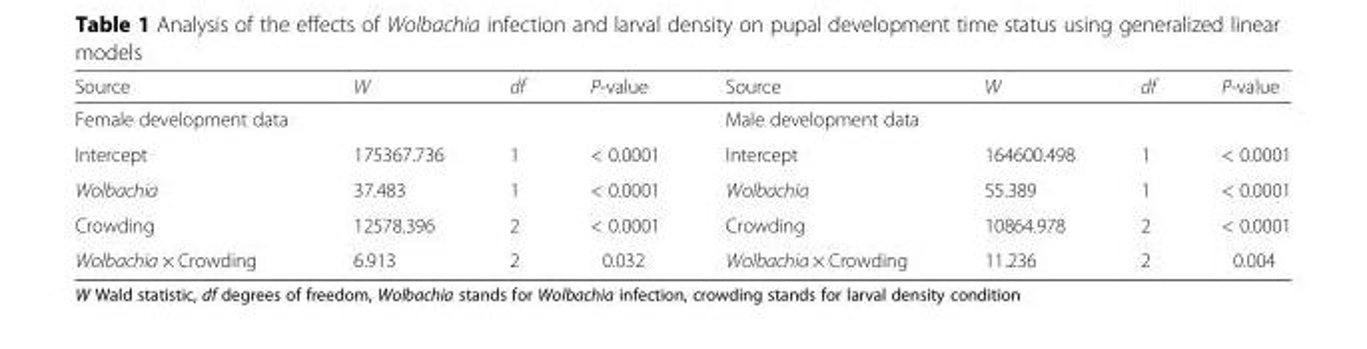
<table><thead><tr><td>Source</td><td>W</td><td>df</td><td>P-value</td><td>Source</td><td>W</td><td>df</td><td>P-value</td></tr></thead><tbody><tr><td>Female development data</td><td></td><td></td><td></td><td>Male development data</td><td></td><td></td><td></td></tr><tr><td>Intercept</td><td>175367.736</td><td>1</td><td>&lt; 0.0001</td><td>Intercept</td><td>164600.498</td><td>1</td><td>&lt; 0.0001</td></tr><tr><td>Wolbachia</td><td>37.483</td><td>1</td><td>&lt; 0.0001</td><td>Wolbachia</td><td>55.389</td><td>1</td><td>&lt; 0.0001</td></tr><tr><td>Crowding</td><td>12578.396</td><td>2</td><td>&lt; 0.0001</td><td>Crowding</td><td>10864.978</td><td>2</td><td>&lt; 0.0001</td></tr><tr><td>Wolbachia × Crowding</td><td>6.913</td><td>2</td><td>0.032</td><td>Wolbachia × Crowding</td><td>11.236</td><td>2</td><td>0.004</td></tr></tbody></table>